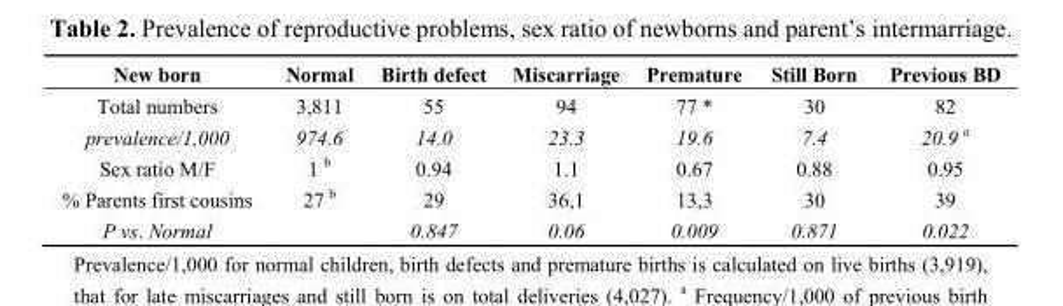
<table><thead><tr><td>New born</td><td>Normal</td><td>Birth defect</td><td>Miscarriage</td><td>Premature</td><td>Still Born</td><td>Previous BD</td></tr></thead><tbody><tr><td>Total numbers</td><td>3,811</td><td>55</td><td>94</td><td>77 *</td><td>30</td><td>82</td></tr><tr><td>prevalence/1,000</td><td>974.6</td><td>14.0</td><td>23.3</td><td>19.6</td><td>7.4</td><td>20.9 <sup>a</sup></td></tr><tr><td>Sex ratio M/F</td><td>1 <sup>b</sup></td><td>0.94</td><td>1.1</td><td>0.67</td><td>0.88</td><td>0.95</td></tr><tr><td>% Parents first cousins</td><td>27 <sup>b</sup></td><td>29</td><td>36,1</td><td>13,3</td><td>30</td><td>39</td></tr><tr><td>P vs. Normal</td><td></td><td>0.847</td><td>0.06</td><td>0.009</td><td>0.871</td><td>0.022</td></tr></tbody></table>